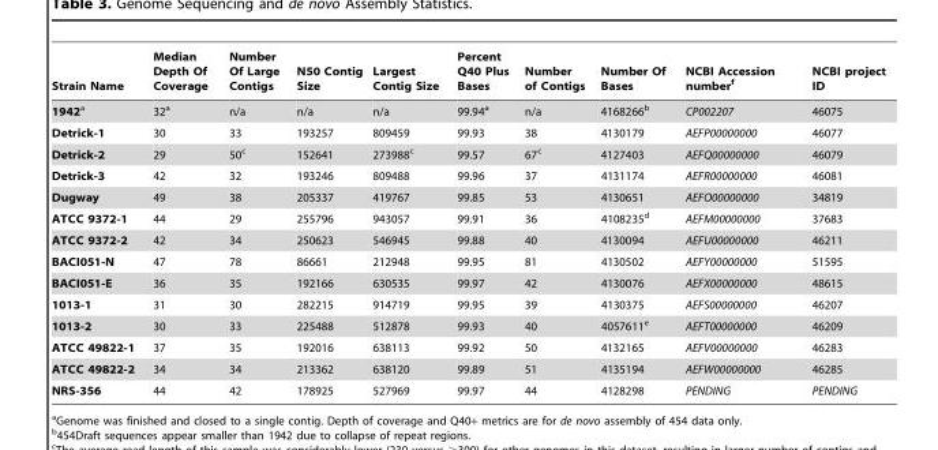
<table><thead><tr><td>Strain Name</td><td>Median Depth Of Coverage</td><td>Number Of Large Contigs</td><td>N50 Contig Size</td><td>Largest Contig Size</td><td>Percent Q40 Plus Bases</td><td>Number of Contigs</td><td>Number Of Bases</td><td>NCBI Accession number<sup>f</sup></td><td>NCBI project ID</td></tr></thead><tbody><tr><td>1942a</td><td>32<sup>a</sup></td><td>n/a</td><td>n/a</td><td>n/a</td><td>99.94<sup>a</sup></td><td>n/a</td><td>4168266<sup>b</sup></td><td>CP002207</td><td>46075</td></tr><tr><td>Detrick-1</td><td>30</td><td>33</td><td>193257</td><td>809459</td><td>99.93</td><td>38</td><td>4130179</td><td>AEFP00000000</td><td>46077</td></tr><tr><td>Detrick-2</td><td>29</td><td>50<sup>c</sup></td><td>152641</td><td>273988<sup>c</sup></td><td>99.57</td><td>67<sup>c</sup></td><td>4127403</td><td>AEFQ00000000</td><td>46079</td></tr><tr><td>Detrick-3</td><td>42</td><td>32</td><td>193246</td><td>809488</td><td>99.96</td><td>37</td><td>4131174</td><td>AEFR00000000</td><td>46081</td></tr><tr><td>Dugway</td><td>49</td><td>38</td><td>205337</td><td>419767</td><td>99.85</td><td>53</td><td>4130651</td><td>AEFO00000000</td><td>34819</td></tr><tr><td>ATCC 9372-1</td><td>44</td><td>29</td><td>255796</td><td>943057</td><td>99.91</td><td>36</td><td>4108235<sup>d</sup></td><td>AEFM00000000</td><td>37683</td></tr><tr><td>ATCC 9372-2</td><td>42</td><td>34</td><td>250623</td><td>546945</td><td>99.88</td><td>40</td><td>4130094</td><td>AEFU00000000</td><td>46211</td></tr><tr><td>BACI051-N</td><td>47</td><td>78</td><td>86661</td><td>212948</td><td>99.95</td><td>81</td><td>4130502</td><td>AEFY00000000</td><td>51595</td></tr><tr><td>BACI051-E</td><td>36</td><td>35</td><td>192166</td><td>630535</td><td>99.97</td><td>42</td><td>4130076</td><td>AEFX00000000</td><td>48615</td></tr><tr><td>1013-1</td><td>31</td><td>30</td><td>282215</td><td>914719</td><td>99.95</td><td>39</td><td>4130375</td><td>AEFS00000000</td><td>46207</td></tr><tr><td>1013-2</td><td>30</td><td>33</td><td>225488</td><td>512878</td><td>99.93</td><td>40</td><td>4057611<sup>e</sup></td><td>AEFT00000000</td><td>46209</td></tr><tr><td>ATCC 49822-1</td><td>37</td><td>35</td><td>192016</td><td>638113</td><td>99.92</td><td>50</td><td>4132165</td><td>AEFV00000000</td><td>46283</td></tr><tr><td>ATCC 49822-2</td><td>34</td><td>34</td><td>213362</td><td>638120</td><td>99.89</td><td>51</td><td>4135194</td><td>AEFW00000000</td><td>46285</td></tr><tr><td>NRS-356</td><td>44</td><td>42</td><td>178925</td><td>527969</td><td>99.97</td><td>44</td><td>4128298</td><td>PENDING</td><td>PENDING</td></tr></tbody></table>